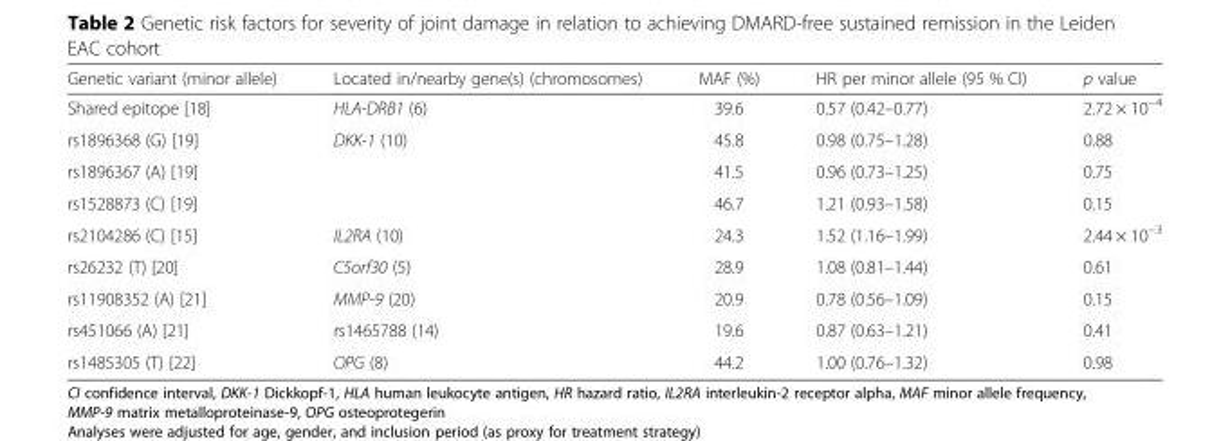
<table><thead><tr><td>Genetic variant (minor allele)</td><td>Located in/nearby gene(s) (chromosomes)</td><td>MAF (%)</td><td>HR per minor allele (95 % CI)</td><td>p value</td></tr></thead><tbody><tr><td>Shared epitope [18]</td><td>HLA-DRB1 (6)</td><td>39.6</td><td>0.57 (0.42–0.77)</td><td>2.72 × 10<sup>−4</sup></td></tr><tr><td>rs1896368 (G) [19]</td><td>DKK-1 (10)</td><td>45.8</td><td>0.98 (0.75–1.28)</td><td>0.88</td></tr><tr><td>rs1896367 (A) [19]</td><td></td><td>41.5</td><td>0.96 (0.73–1.25)</td><td>0.75</td></tr><tr><td>rs1528873 (C) [19]</td><td></td><td>46.7</td><td>1.21 (0.93–1.58)</td><td>0.15</td></tr><tr><td>rs2104286 (C) [15]</td><td>IL2RA (10)</td><td>24.3</td><td>1.52 (1.16–1.99)</td><td>2.44 × 10<sup>−3</sup></td></tr><tr><td>rs26232 (T) [20]</td><td>C5orf30 (5)</td><td>28.9</td><td>1.08 (0.81–1.44)</td><td>0.61</td></tr><tr><td>rs11908352 (A) [21]</td><td>MMP-9 (20)</td><td>20.9</td><td>0.78 (0.56–1.09)</td><td>0.15</td></tr><tr><td>rs451066 (A) [21]</td><td>rs1465788 (14)</td><td>19.6</td><td>0.87 (0.63–1.21)</td><td>0.41</td></tr><tr><td>rs1485305 (T) [22]</td><td>OPG (8)</td><td>44.2</td><td>1.00 (0.76–1.32)</td><td>0.98</td></tr></tbody></table>